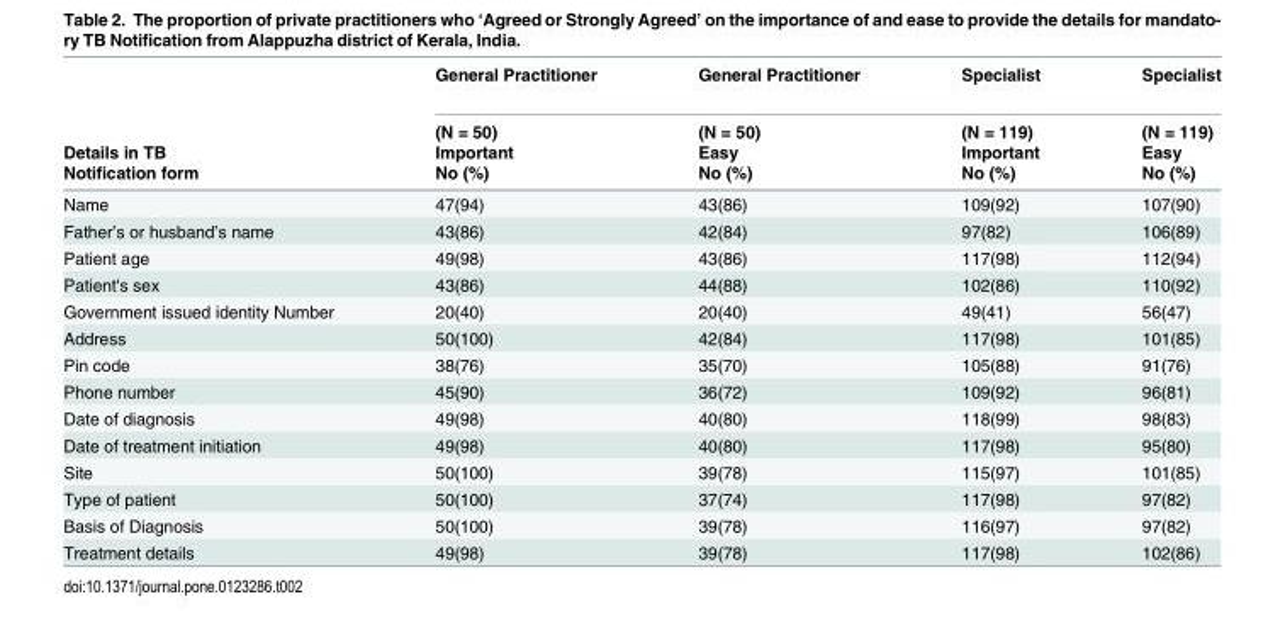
<table><thead><tr><td rowspan="4">Details in TB Notification form</td><td rowspan="4">General Practitioner (N = 50) Important No (%)</td><td rowspan="4">General Practitioner (N = 50) Easy No (%)</td><td rowspan="4">Specialist (N = 119) Important No (%)</td><td rowspan="4">Specialist (N = 119) Easy No (%)</td></tr><tr></tr><tr></tr><tr></tr></thead><tbody><tr><td>Name</td><td>47(94)</td><td>43(86)</td><td>109(92)</td><td>107(90)</td></tr><tr><td>Father’s or husband’s name</td><td>43(86)</td><td>42(84)</td><td>97(82)</td><td>106(89)</td></tr><tr><td>Patient age</td><td>49(98)</td><td>43(86)</td><td>117(98)</td><td>112(94)</td></tr><tr><td>Patient&#x27;s sex</td><td>43(86)</td><td>44(88)</td><td>102(86)</td><td>110(92)</td></tr><tr><td>Government issued identity Number</td><td>20(40)</td><td>20(40)</td><td>49(41)</td><td>56(47)</td></tr><tr><td>Address</td><td>50(100)</td><td>42(84)</td><td>117(98)</td><td>101(85)</td></tr><tr><td>Pin code</td><td>38(76)</td><td>35(70)</td><td>105(88)</td><td>91(76)</td></tr><tr><td>Phone number</td><td>45(90)</td><td>36(72)</td><td>109(92)</td><td>96(81)</td></tr><tr><td>Date of diagnosis</td><td>49(98)</td><td>40(80)</td><td>118(99)</td><td>98(83)</td></tr><tr><td>Date of treatment initiation</td><td>49(98)</td><td>40(80)</td><td>117(98)</td><td>95(80)</td></tr><tr><td>Site</td><td>50(100)</td><td>39(78)</td><td>115(97)</td><td>101(85)</td></tr><tr><td>Type of patient</td><td>50(100)</td><td>37(74)</td><td>117(98)</td><td>97(82)</td></tr><tr><td>Basis of Diagnosis</td><td>50(100)</td><td>39(78)</td><td>116(97)</td><td>97(82)</td></tr><tr><td>Treatment details</td><td>49(98)</td><td>39(78)</td><td>117(98)</td><td>102(86)</td></tr></tbody></table>